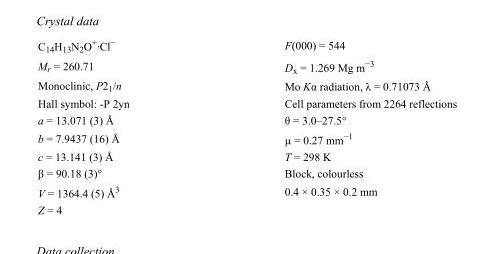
<table><tbody><tr><td>C<sub>14</sub>H<sub>13</sub>N<sub>2</sub>O<sup>+</sup>·Cl<sup>−</sup></td><td>F(000) = 544</td></tr><tr><td>M<sub>r</sub> = 260.71</td><td>D<sub>x</sub> = 1.269 Mg m<sup>−3</sup></td></tr><tr><td>Monoclinic, P2<sub>1</sub>/n</td><td>Mo Kα radiation, λ = 0.71073 Å</td></tr><tr><td>Hall symbol: -P 2yn</td><td>Cell parameters from 2264 reflections</td></tr><tr><td>a = 13.071 (3) Å</td><td>θ = 3.0–27.5°</td></tr><tr><td>b = 7.9437 (16) Å</td><td>µ = 0.27 mm<sup>−1</sup></td></tr><tr><td>c = 13.141 (3) Å</td><td>T = 298 K</td></tr><tr><td>β = 90.18 (3)°</td><td>Block, colourless</td></tr><tr><td>V = 1364.4 (5) Å<sup>3</sup></td><td>0.4 × 0.35 × 0.2 mm</td></tr><tr><td>Z = 4</td><td></td></tr></tbody></table>